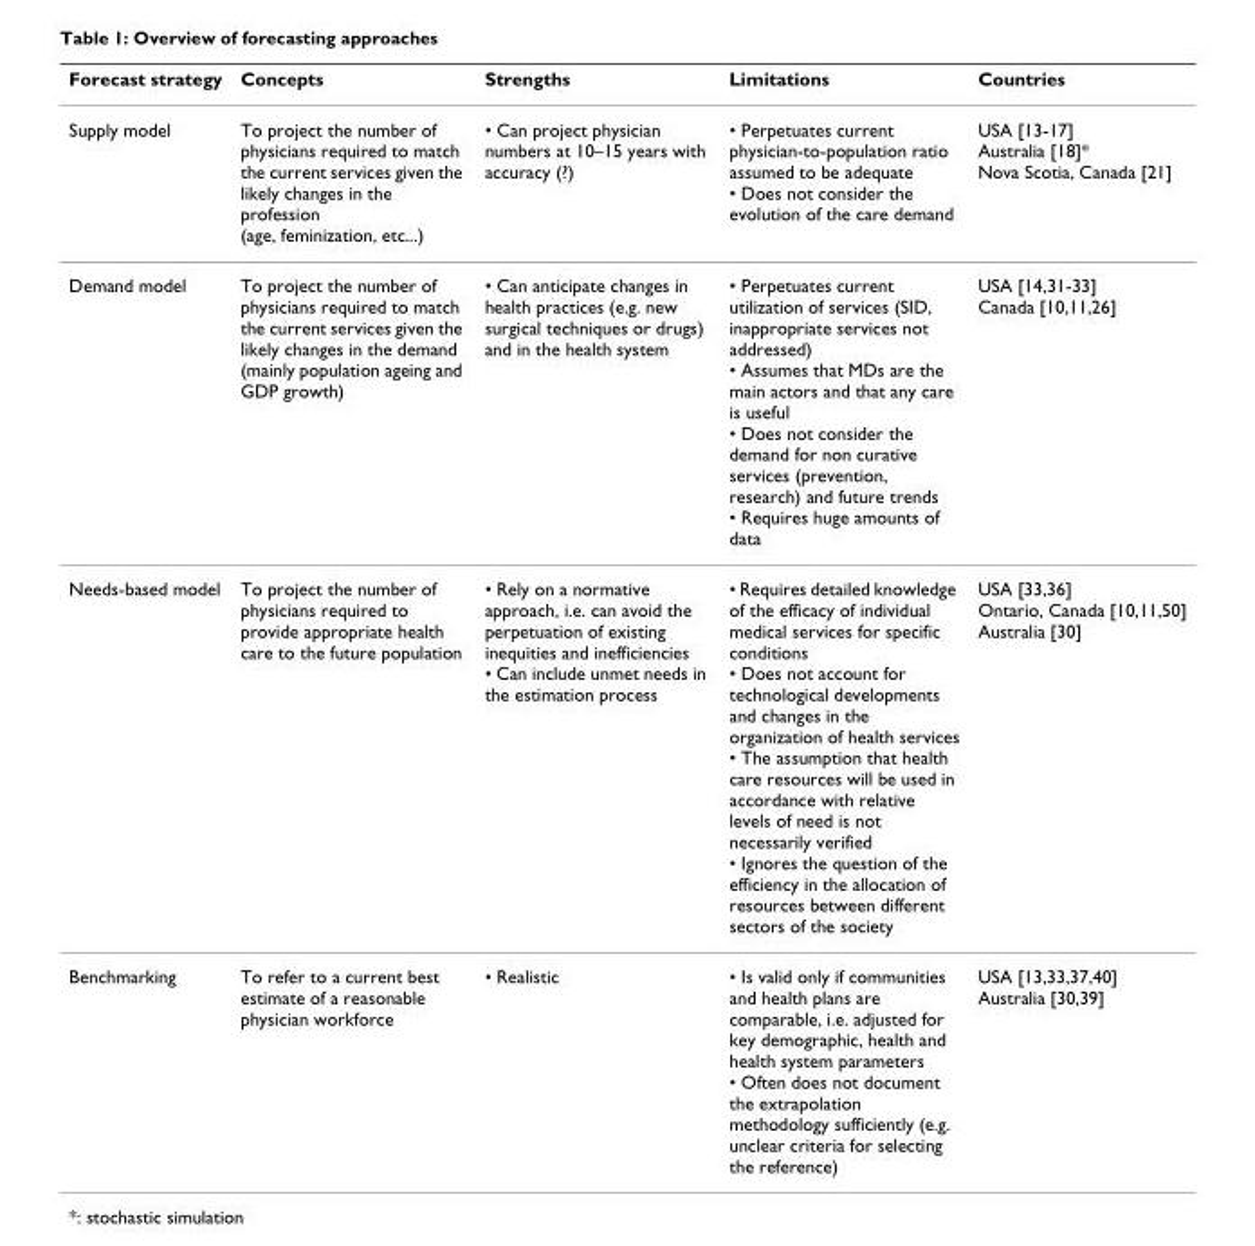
<table><thead><tr><td>Forecast strategy</td><td>Concepts</td><td>Strengths</td><td>Limitations</td><td>Countries</td></tr></thead><tbody><tr><td>Supply model</td><td>To project the number of physicians required to match the current services given the likely changes in the profession (age, feminization, etc...)</td><td>• Can project physician numbers at 10–15 years with accuracy (?)</td><td>• Perpetuates current physician-to-population ratio assumed to be adequate • Does not consider the evolution of the care demand</td><td>USA [13-17] Australia [18]* Nova Scotia, Canada [21]</td></tr><tr><td>Demand model</td><td>To project the number of physicians required to match the current services given the likely changes in the demand (mainly population ageing and GDP growth)</td><td>• Can anticipate changes in health practices (e.g. new surgical techniques or drugs) and in the health system</td><td>• Perpetuates current utilization of services (SID, inappropriate services not addressed) • Assumes that MDs are the main actors and that any care is useful • Does not consider the demand for non curative services (prevention, research) and future trends • Requires huge amounts of data</td><td>USA [14,31-33] Canada [10,11,26]</td></tr><tr><td>Needs-based model</td><td>To project the number of physicians required to provide appropriate health care to the future population</td><td>• Rely on a normative approach, i.e. can avoid the perpetuation of existing inequities and inefficiencies • Can include unmet needs in the estimation process</td><td>• Requires detailed knowledge of the efficacy of individual medical services for specific conditions • Does not account for technological developments and changes in the organization of health services • The assumption that health care resources will be used in accordance with relative levels of need is not necessarily verified • Ignores the question of the efficiency in the allocation of resources between different sectors of the society</td><td>USA [33,36] Ontario, Canada [10,11,50] Australia [30]</td></tr><tr><td>Benchmarking</td><td>To refer to a current best estimate of a reasonable physician workforce</td><td>• Realistic</td><td>• Is valid only if communities and health plans are comparable, i.e. adjusted for key demographic, health and health system parameters • Often does not document the extrapolation methodology sufficiently (e.g. unclear criteria for selecting the reference)</td><td>USA [13,33,37,40] Australia [30,39]</td></tr></tbody></table>